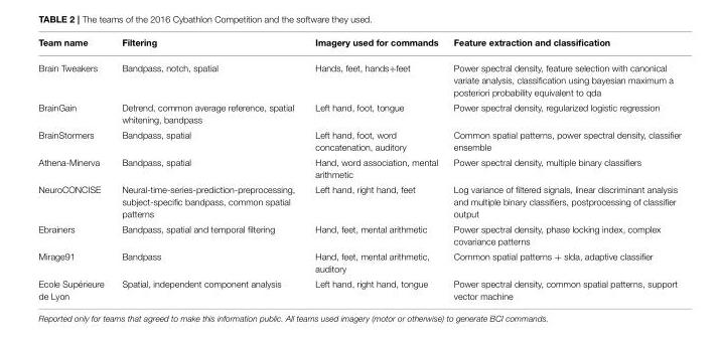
<table><thead><tr><td>Team name</td><td>Filtering</td><td>Imagery used for commands</td><td>Feature extraction and classification</td></tr></thead><tbody><tr><td>Brain Tweakers</td><td>Bandpass, notch, spatial</td><td>Hands, feet, hands+feet</td><td>Power spectral density, feature selection with canonical variate analysis, classification using bayesian maximum a posteriori probability equivalent to qda</td></tr><tr><td>BrainGain</td><td>Detrend, common average reference, spatial whitening, bandpass</td><td>Left hand, foot, tongue</td><td>Power spectral density, regularized logistic regression</td></tr><tr><td>BrainStormers</td><td>Bandpass, spatial</td><td>Left hand, foot, word concatenation, auditory</td><td>Common spatial patterns, power spectral density, classifier ensemble</td></tr><tr><td>Athena-Minerva</td><td>Bandpass, spatial</td><td>Hand, word association, mental arithmetic</td><td>Power spectral density, multiple binary classifiers</td></tr><tr><td>NeuroCONCISE</td><td>Neural-time-series-prediction-preprocessing, subject-specific bandpass, common spatial patterns</td><td>Left hand, right hand, feet</td><td>Log variance of filtered signals, linear discriminant analysis and multiple binary classifiers, postprocessing of classifier output</td></tr><tr><td>Ebrainers</td><td>Bandpass, spatial and temporal filtering</td><td>Hand, feet, mental arithmetic</td><td>Power spectral density, phase locking index, complex covariance patterns</td></tr><tr><td>Mirage91</td><td>Bandpass</td><td>Hand, feet, mental arithmetic, auditory</td><td>Common spatial patterns + slda, adaptive classifier</td></tr><tr><td>Ecole Supérieure de Lyon</td><td>Spatial, independent component analysis</td><td>Left hand, right hand, tongue</td><td>Power spectral density, common spatial patterns, support vector machine</td></tr></tbody></table>